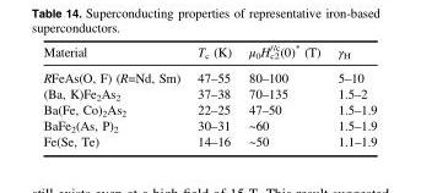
<table><thead><tr><td>Material</td><td>T<sub>c</sub> (K)</td><td>μ0Hc2 //c(0)* (T)</td><td>γ<sub>H</sub></td></tr></thead><tbody><tr><td>RFeAs(O, F) (R=Nd, Sm)</td><td>47–55</td><td>80–100</td><td>5–10</td></tr><tr><td>(Ba, K)Fe<sub>2</sub>As<sub>2</sub></td><td>37–38</td><td>70–135</td><td>1.5–2</td></tr><tr><td>Ba(Fe, Co)<sub>2</sub>As<sub>2</sub></td><td>22–25</td><td>47–50</td><td>1.5–1.9</td></tr><tr><td>BaFe<sub>2</sub>(As, P)<sub>2</sub></td><td>30–31</td><td>~60</td><td>1.5–1.9</td></tr><tr><td>Fe(Se, Te)</td><td>14–16</td><td>~50</td><td>1.1–1.9</td></tr></tbody></table>